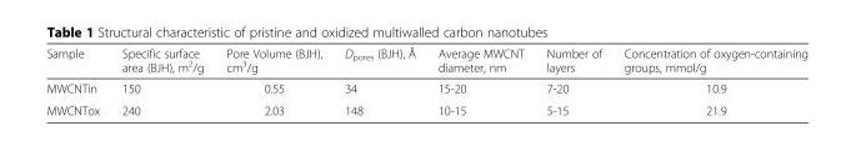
<table><thead><tr><td>Sample</td><td>Specific surface area (BJH), m<sup>2</sup>/g</td><td>Pore Volume (BJH), cm<sup>3</sup>/g</td><td>D<sub>pores</sub> (BJH), Å</td><td>Average MWCNT diameter, nm</td><td>Number of layers</td><td>Concentration of oxygen-containing groups, mmol/g</td></tr></thead><tbody><tr><td>MWCNTin</td><td>150</td><td>0.55</td><td>34</td><td>15-20</td><td>7-20</td><td>10.9</td></tr><tr><td>MWCNTox</td><td>240</td><td>2.03</td><td>148</td><td>10-15</td><td>5-15</td><td>21.9</td></tr></tbody></table>